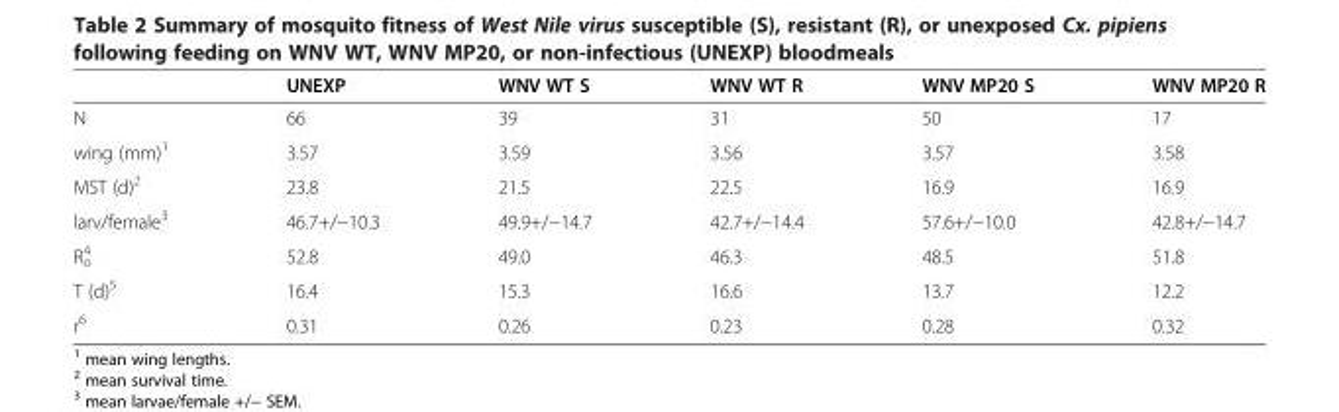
<table><thead><tr><td></td><td>UNEXP</td><td>WNV WT S</td><td>WNV WT R</td><td>WNV MP20 S</td><td>WNV MP20 R</td></tr></thead><tbody><tr><td>N</td><td>66</td><td>39</td><td>31</td><td>50</td><td>17</td></tr><tr><td>wing (mm)<sup>1</sup></td><td>3.57</td><td>3.59</td><td>3.56</td><td>3.57</td><td>3.58</td></tr><tr><td>MST (d)<sup>2</sup></td><td>23.8</td><td>21.5</td><td>22.5</td><td>16.9</td><td>16.9</td></tr><tr><td>larv/female<sup>3</sup></td><td>46.7+/−10.3</td><td>49.9+/−14.7</td><td>42.7+/−14.4</td><td>57.6+/−10.0</td><td>42.8+/−14.7</td></tr><tr><td>R<sub>o</sub> <sup>4</sup></td><td>52.8</td><td>49.0</td><td>46.3</td><td>48.5</td><td>51.8</td></tr><tr><td>T (d)<sup>5</sup></td><td>16.4</td><td>15.3</td><td>16.6</td><td>13.7</td><td>12.2</td></tr><tr><td>r<sup>6</sup></td><td>0.31</td><td>0.26</td><td>0.23</td><td>0.28</td><td>0.32</td></tr></tbody></table>